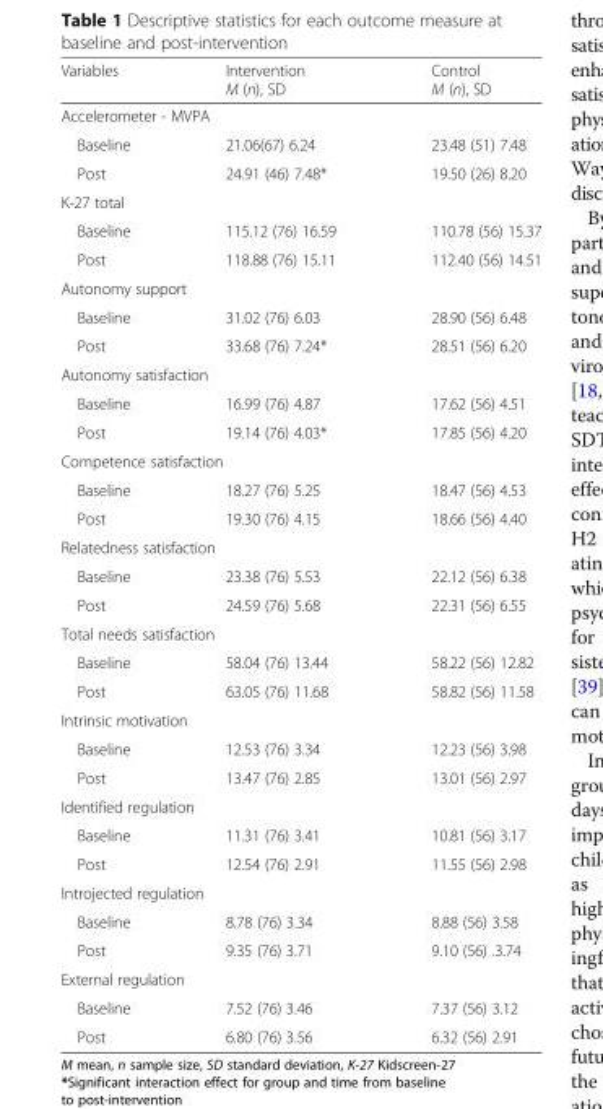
<table><thead><tr><td>Variables</td><td>Intervention M (n), SD</td><td>Control M (n), SD</td></tr></thead><tbody><tr><td colspan="3">Accelerometer - MVPA</td></tr><tr><td>Baseline</td><td>21.06(67) 6.24</td><td>23.48 (51) 7.48</td></tr><tr><td>Post</td><td>24.91 (46) 7.48*</td><td>19.50 (26) 8.20</td></tr><tr><td colspan="3">K-27 total</td></tr><tr><td>Baseline</td><td>115.12 (76) 16.59</td><td>110.78 (56) 15.37</td></tr><tr><td>Post</td><td>118.88 (76) 15.11</td><td>112.40 (56) 14.51</td></tr><tr><td colspan="3">Autonomy support</td></tr><tr><td>Baseline</td><td>31.02 (76) 6.03</td><td>28.90 (56) 6.48</td></tr><tr><td>Post</td><td>33.68 (76) 7.24*</td><td>28.51 (56) 6.20</td></tr><tr><td colspan="3">Autonomy satisfaction</td></tr><tr><td>Baseline</td><td>16.99 (76) 4.87</td><td>17.62 (56) 4.51</td></tr><tr><td>Post</td><td>19.14 (76) 4.03*</td><td>17.85 (56) 4.20</td></tr><tr><td colspan="3">Competence satisfaction</td></tr><tr><td>Baseline</td><td>18.27 (76) 5.25</td><td>18.47 (56) 4.53</td></tr><tr><td>Post</td><td>19.30 (76) 4.15</td><td>18.66 (56) 4.40</td></tr><tr><td colspan="3">Relatedness satisfaction</td></tr><tr><td>Baseline</td><td>23.38 (76) 5.53</td><td>22.12 (56) 6.38</td></tr><tr><td>Post</td><td>24.59 (76) 5.68</td><td>22.31 (56) 6.55</td></tr><tr><td colspan="3">Total needs satisfaction</td></tr><tr><td>Baseline</td><td>58.04 (76) 13.44</td><td>58.22 (56) 12.82</td></tr><tr><td>Post</td><td>63.05 (76) 11.68</td><td>58.82 (56) 11.58</td></tr><tr><td colspan="3">Intrinsic motivation</td></tr><tr><td>Baseline</td><td>12.53 (76) 3.34</td><td>12.23 (56) 3.98</td></tr><tr><td>Post</td><td>13.47 (76) 2.85</td><td>13.01 (56) 2.97</td></tr><tr><td colspan="3">Identified regulation</td></tr><tr><td>Baseline</td><td>11.31 (76) 3.41</td><td>10.81 (56) 3.17</td></tr><tr><td>Post</td><td>12.54 (76) 2.91</td><td>11.55 (56) 2.98</td></tr><tr><td colspan="3">Introjected regulation</td></tr><tr><td>Baseline</td><td>8.78 (76) 3.34</td><td>8.88 (56) 3.58</td></tr><tr><td>Post</td><td>9.35 (76) 3.71</td><td>9.10 (56) .3.74</td></tr><tr><td colspan="3">External regulation</td></tr><tr><td>Baseline</td><td>7.52 (76) 3.46</td><td>7.37 (56) 3.12</td></tr><tr><td>Post</td><td>6.80 (76) 3.56</td><td>6.32 (56) 2.91</td></tr></tbody></table>